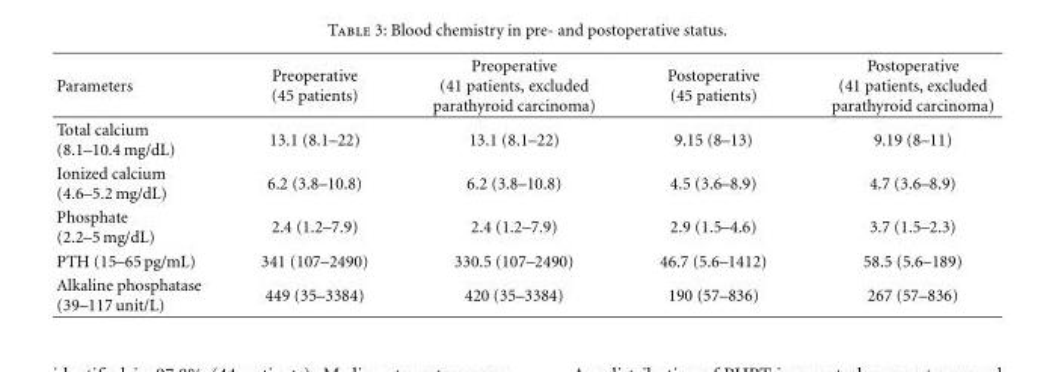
<table><thead><tr><td>Parameters</td><td>Preoperative (45 patients)</td><td>Preoperative (41 patients, excluded parathyroid carcinoma)</td><td>Postoperative (45 patients)</td><td>Postoperative (41 patients, excluded parathyroid carcinoma)</td></tr></thead><tbody><tr><td>Total calcium (8.1–10.4 mg/dL)</td><td>13.1 (8.1–22)</td><td>13.1 (8.1–22)</td><td>9.15 (8–13)</td><td>9.19 (8–11)</td></tr><tr><td>Ionized calcium (4.6–5.2 mg/dL)</td><td>6.2 (3.8–10.8)</td><td>6.2 (3.8–10.8)</td><td>4.5 (3.6–8.9)</td><td>4.7 (3.6–8.9)</td></tr><tr><td>Phosphate (2.2–5 mg/dL)</td><td>2.4 (1.2–7.9)</td><td>2.4 (1.2–7.9)</td><td>2.9 (1.5–4.6)</td><td>3.7 (1.5–2.3)</td></tr><tr><td>PTH (15–65 pg/mL)</td><td>341 (107–2490)</td><td>330.5 (107–2490)</td><td>46.7 (5.6–1412)</td><td>58.5 (5.6–189)</td></tr><tr><td>Alkaline phosphatase (39–117 unit/L)</td><td>449 (35–3384)</td><td>420 (35–3384)</td><td>190 (57–836)</td><td>267 (57–836)</td></tr></tbody></table>